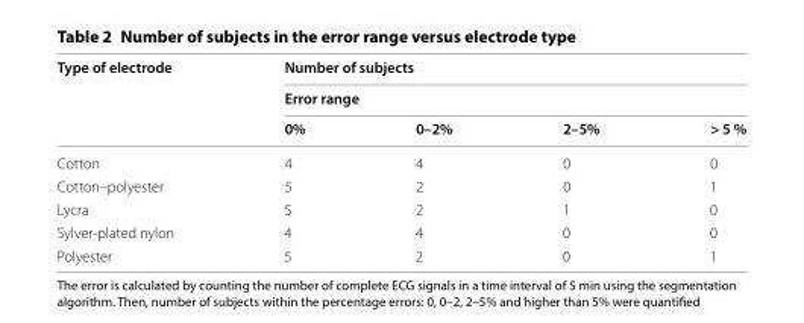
<table><thead><tr><td rowspan="3">Type of electrode</td><td rowspan="2" colspan="4">Number of subjects Error range</td></tr><tr></tr><tr><td>0%</td><td>0–2%</td><td>2–5%</td><td>&gt; 5 %</td></tr></thead><tbody><tr><td>Cotton</td><td>4</td><td>4</td><td>0</td><td>0</td></tr><tr><td>Cotton–polyester</td><td>5</td><td>2</td><td>0</td><td>1</td></tr><tr><td>Lycra</td><td>5</td><td>2</td><td>1</td><td>0</td></tr><tr><td>Sylver‑plated nylon</td><td>4</td><td>4</td><td>0</td><td>0</td></tr><tr><td>Polyester</td><td>5</td><td>2</td><td>0</td><td>1</td></tr></tbody></table>